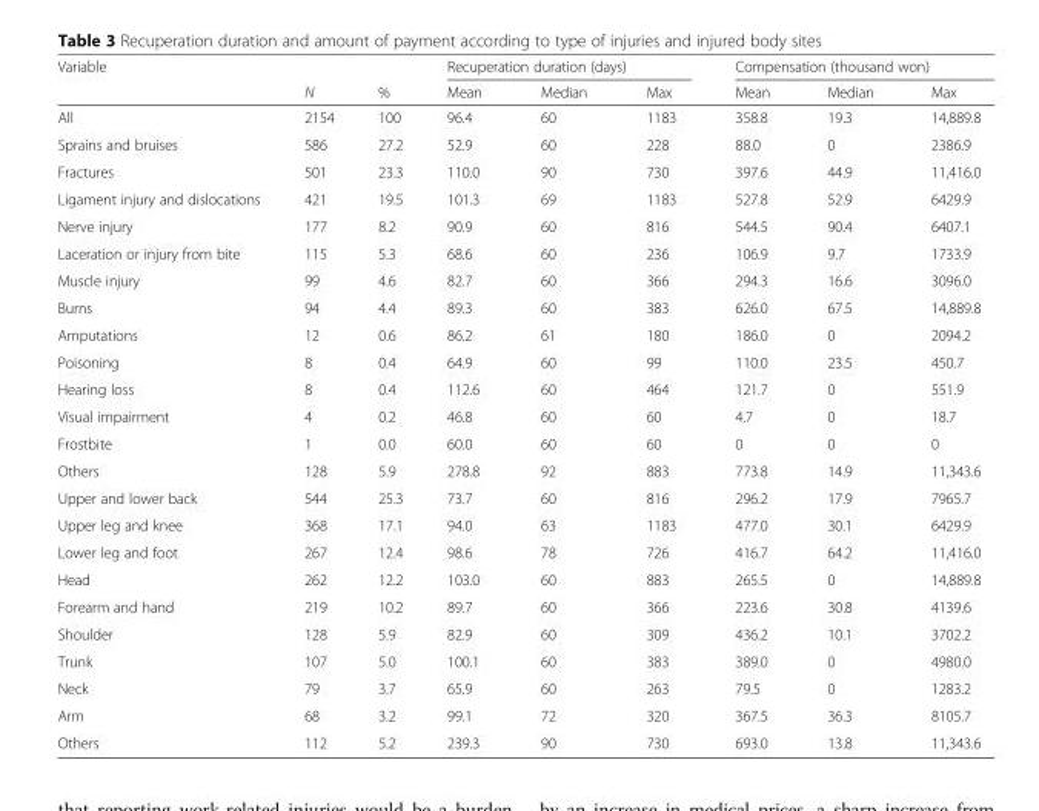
<table><thead><tr><td rowspan="2">Variable</td><td rowspan="2">N</td><td rowspan="2">%</td><td colspan="3">Recuperation duration (days)</td><td colspan="3">Compensation (thousand won)</td></tr><tr><td>Mean</td><td>Median</td><td>Max</td><td>Mean</td><td>Median</td><td>Max</td></tr></thead><tbody><tr><td>All</td><td>2154</td><td>100</td><td>96.4</td><td>60</td><td>1183</td><td>358.8</td><td>19.3</td><td>14,889.8</td></tr><tr><td>Sprains and bruises</td><td>586</td><td>27.2</td><td>52.9</td><td>60</td><td>228</td><td>88.0</td><td>0</td><td>2386.9</td></tr><tr><td>Fractures</td><td>501</td><td>23.3</td><td>110.0</td><td>90</td><td>730</td><td>397.6</td><td>44.9</td><td>11,416.0</td></tr><tr><td>Ligament injury and dislocations</td><td>421</td><td>19.5</td><td>101.3</td><td>69</td><td>1183</td><td>527.8</td><td>52.9</td><td>6429.9</td></tr><tr><td>Nerve injury</td><td>177</td><td>8.2</td><td>90.9</td><td>60</td><td>816</td><td>544.5</td><td>90.4</td><td>6407.1</td></tr><tr><td>Laceration or injury from bite</td><td>115</td><td>5.3</td><td>68.6</td><td>60</td><td>236</td><td>106.9</td><td>9.7</td><td>1733.9</td></tr><tr><td>Muscle injury</td><td>99</td><td>4.6</td><td>82.7</td><td>60</td><td>366</td><td>294.3</td><td>16.6</td><td>3096.0</td></tr><tr><td>Burns</td><td>94</td><td>4.4</td><td>89.3</td><td>60</td><td>383</td><td>626.0</td><td>67.5</td><td>14,889.8</td></tr><tr><td>Amputations</td><td>12</td><td>0.6</td><td>86.2</td><td>61</td><td>180</td><td>186.0</td><td>0</td><td>2094.2</td></tr><tr><td>Poisoning</td><td>8</td><td>0.4</td><td>64.9</td><td>60</td><td>99</td><td>110.0</td><td>23.5</td><td>450.7</td></tr><tr><td>Hearing loss</td><td>8</td><td>0.4</td><td>112.6</td><td>60</td><td>464</td><td>121.7</td><td>0</td><td>551.9</td></tr><tr><td>Visual impairment</td><td>4</td><td>0.2</td><td>46.8</td><td>60</td><td>60</td><td>4.7</td><td>0</td><td>18.7</td></tr><tr><td>Frostbite</td><td>1</td><td>0.0</td><td>60.0</td><td>60</td><td>60</td><td>0</td><td>0</td><td>0</td></tr><tr><td>Others</td><td>128</td><td>5.9</td><td>278.8</td><td>92</td><td>883</td><td>773.8</td><td>14.9</td><td>11,343.6</td></tr><tr><td>Upper and lower back</td><td>544</td><td>25.3</td><td>73.7</td><td>60</td><td>816</td><td>296.2</td><td>17.9</td><td>7965.7</td></tr><tr><td>Upper leg and knee</td><td>368</td><td>17.1</td><td>94.0</td><td>63</td><td>1183</td><td>477.0</td><td>30.1</td><td>6429.9</td></tr><tr><td>Lower leg and foot</td><td>267</td><td>12.4</td><td>98.6</td><td>78</td><td>726</td><td>416.7</td><td>64.2</td><td>11,416.0</td></tr><tr><td>Head</td><td>262</td><td>12.2</td><td>103.0</td><td>60</td><td>883</td><td>265.5</td><td>0</td><td>14,889.8</td></tr><tr><td>Forearm and hand</td><td>219</td><td>10.2</td><td>89.7</td><td>60</td><td>366</td><td>223.6</td><td>30.8</td><td>4139.6</td></tr><tr><td>Shoulder</td><td>128</td><td>5.9</td><td>82.9</td><td>60</td><td>309</td><td>436.2</td><td>10.1</td><td>3702.2</td></tr><tr><td>Trunk</td><td>107</td><td>5.0</td><td>100.1</td><td>60</td><td>383</td><td>389.0</td><td>0</td><td>4980.0</td></tr><tr><td>Neck</td><td>79</td><td>3.7</td><td>65.9</td><td>60</td><td>263</td><td>79.5</td><td>0</td><td>1283.2</td></tr><tr><td>Arm</td><td>68</td><td>3.2</td><td>99.1</td><td>72</td><td>320</td><td>367.5</td><td>36.3</td><td>8105.7</td></tr><tr><td>Others</td><td>112</td><td>5.2</td><td>239.3</td><td>90</td><td>730</td><td>693.0</td><td>13.8</td><td>11,343.6</td></tr></tbody></table>